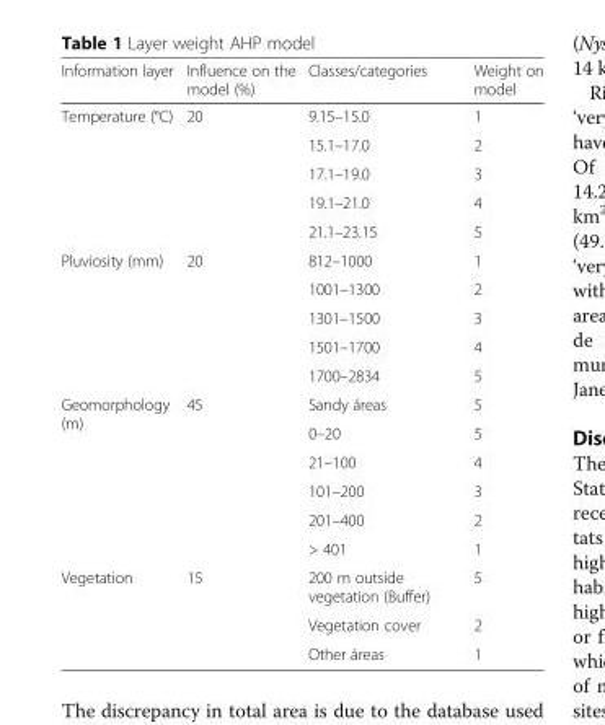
<table><thead><tr><td>Information layer</td><td>Influence on the model (%)</td><td>Classes/categories</td><td>Weight on model</td></tr></thead><tbody><tr><td rowspan="5">Temperature (°C)</td><td rowspan="5">20</td><td>9.15–15.0</td><td>1</td></tr><tr><td>15.1–17.0</td><td>2</td></tr><tr><td>17.1–19.0</td><td>3</td></tr><tr><td>19.1–21.0</td><td>4</td></tr><tr><td>21.1–23.15</td><td>5</td></tr><tr><td rowspan="5">Pluviosity (mm)</td><td rowspan="5">20</td><td>812–1000</td><td>1</td></tr><tr><td>1001–1300</td><td>2</td></tr><tr><td>1301–1500</td><td>3</td></tr><tr><td>1501–1700</td><td>4</td></tr><tr><td>1700–2834</td><td>5</td></tr><tr><td rowspan="6">Geomorphology (m)</td><td rowspan="6">45</td><td>Sandy áreas</td><td>5</td></tr><tr><td>0–20</td><td>5</td></tr><tr><td>21–100</td><td>4</td></tr><tr><td>101–200</td><td>3</td></tr><tr><td>201–400</td><td>2</td></tr><tr><td>&gt; 401</td><td>1</td></tr><tr><td rowspan="3">Vegetation</td><td rowspan="3">15</td><td>200 m outside vegetation (Buffer)</td><td>5</td></tr><tr><td>Vegetation cover</td><td>2</td></tr><tr><td>Other áreas</td><td>1</td></tr></tbody></table>